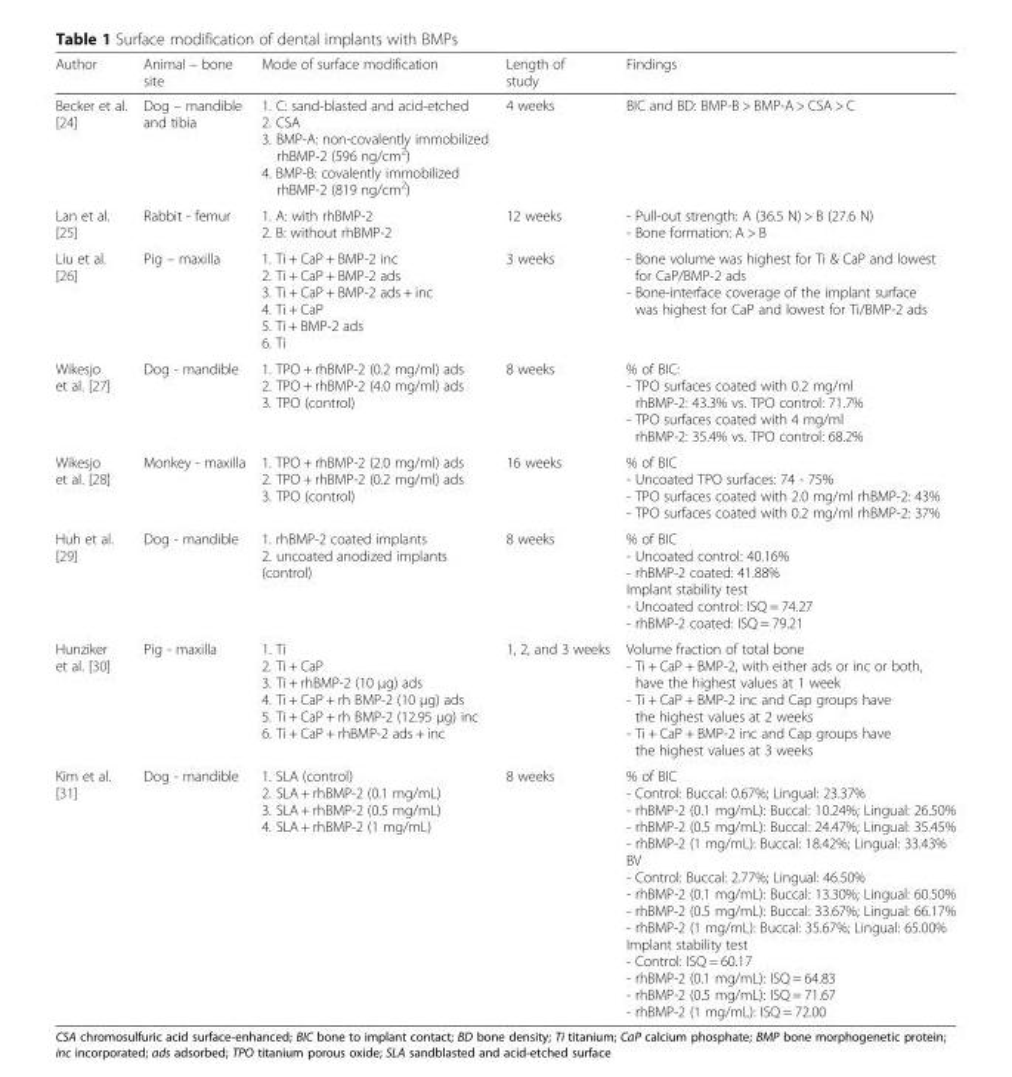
<table><thead><tr><td>Author</td><td>Animal – bone site</td><td>Mode of surface modification</td><td>Length of study</td><td>Findings</td></tr></thead><tbody><tr><td>Becker et al. [24]</td><td>Dog – mandible and tibia</td><td>1. C: sand-blasted and acid-etched 2. CSA 3. BMP-A: non-covalently immobilized rhBMP-2 (596 ng/cm<sup>2</sup>) 4. BMP-B: covalently immobilized rhBMP-2 (819 ng/cm<sup>2</sup>)</td><td>4 weeks</td><td>BIC and BD: BMP-B &gt; BMP-A &gt; CSA &gt; C</td></tr><tr><td>Lan et al. [25]</td><td>Rabbit - femur</td><td>1. A: with rhBMP-2 2. B: without rhBMP-2</td><td>12 weeks</td><td>- Pull-out strength: A (36.5 N) &gt; B (27.6 N) - Bone formation: A &gt; B</td></tr><tr><td>Liu et al. [26]</td><td>Pig – maxilla</td><td>1. Ti + CaP + BMP-2 inc 2. Ti + CaP + BMP-2 ads 3. Ti + CaP + BMP-2 ads + inc 4. Ti + CaP 5. Ti + BMP-2 ads 6. Ti</td><td>3 weeks</td><td>- Bone volume was highest for Ti &amp; CaP and lowest for CaP/BMP-2 ads - Bone-interface coverage of the implant surface was highest for CaP and lowest for Ti/BMP-2 ads</td></tr><tr><td>Wikesjo et al. [27]</td><td>Dog - mandible</td><td>1. TPO + rhBMP-2 (0.2 mg/ml) ads 2. TPO + rhBMP-2 (4.0 mg/ml) ads 3. TPO (control)</td><td>8 weeks</td><td>% of BIC: - TPO surfaces coated with 0.2 mg/ml rhBMP-2: 43.3% vs. TPO control: 71.7% - TPO surfaces coated with 4 mg/ml rhBMP-2: 35.4% vs. TPO control: 68.2%</td></tr><tr><td>Wikesjo et al. [28]</td><td>Monkey - maxilla</td><td>1. TPO + rhBMP-2 (2.0 mg/ml) ads 2. TPO + rhBMP-2 (0.2 mg/ml) ads 3. TPO (control)</td><td>16 weeks</td><td>% of BIC - Uncoated TPO surfaces: 74 - 75% - TPO surfaces coated with 2.0 mg/ml rhBMP-2: 43% - TPO surfaces coated with 0.2 mg/ml rhBMP-2: 37%</td></tr><tr><td>Huh et al. [29]</td><td>Dog - mandible</td><td>1. rhBMP-2 coated implants 2. uncoated anodized implants (control)</td><td>8 weeks</td><td>% of BIC - Uncoated control: 40.16% - rhBMP-2 coated: 41.88% Implant stability test - Uncoated control: ISQ = 74.27 - rhBMP-2 coated: ISQ = 79.21</td></tr><tr><td>Hunziker et al. [30]</td><td>Pig - maxilla</td><td>1. Ti 2. Ti + CaP 3. Ti + rhBMP-2 (10 μg) ads 4. Ti + CaP + rh BMP-2 (10 μg) ads 5. Ti + CaP + rh BMP-2 (12.95 μg) inc 6. Ti + CaP + rhBMP-2 ads + inc</td><td>1, 2, and 3 weeks</td><td>Volume fraction of total bone - Ti + CaP + BMP-2, with either ads or inc or both, have the highest values at 1 week - Ti + CaP + BMP-2 inc and Cap groups have the highest values at 2 weeks - Ti + CaP + BMP-2 inc and Cap groups have the highest values at 3 weeks</td></tr><tr><td>Kim et al. [31]</td><td>Dog - mandible</td><td>1. SLA (control) 2. SLA + rhBMP-2 (0.1 mg/mL) 3. SLA + rhBMP-2 (0.5 mg/mL) 4. SLA + rhBMP-2 (1 mg/mL)</td><td>8 weeks</td><td>% of BIC - Control: Buccal: 0.67%; Lingual: 23.37% - rhBMP-2 (0.1 mg/mL): Buccal: 10.24%; Lingual: 26.50% - rhBMP-2 (0.5 mg/mL): Buccal: 24.47%; Lingual: 35.45% - rhBMP-2 (1 mg/mL): Buccal: 18.42%; Lingual: 33.43% BV - Control: Buccal: 2.77%; Lingual: 46.50% - rhBMP-2 (0.1 mg/mL): Buccal: 13.30%; Lingual: 60.50% - rhBMP-2 (0.5 mg/mL): Buccal: 33.67%; Lingual: 66.17% - rhBMP-2 (1 mg/mL): Buccal: 35.67%; Lingual: 65.00% Implant stability test - Control: ISQ = 60.17 - rhBMP-2 (0.1 mg/mL): ISQ = 64.83 - rhBMP-2 (0.5 mg/mL): ISQ = 71.67 - rhBMP-2 (1 mg/mL): ISQ = 72.00</td></tr></tbody></table>